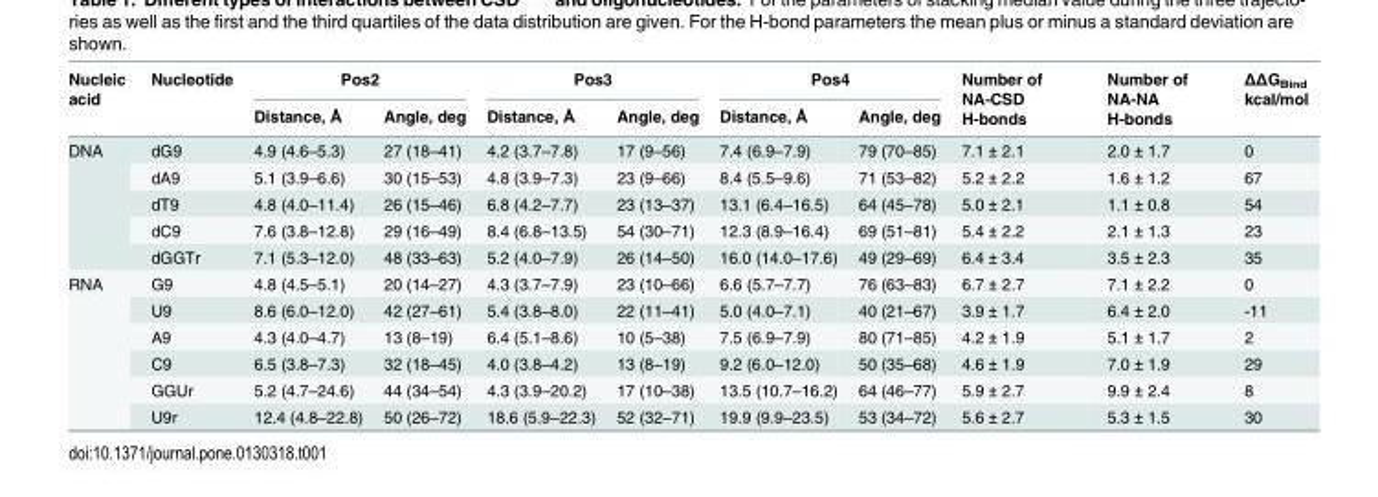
<table><thead><tr><td rowspan="2">Nucleic acid</td><td rowspan="2">Nucleotide</td><td colspan="2">Pos2</td><td colspan="2">Pos3</td><td colspan="2">Pos4</td><td rowspan="2">Number of NA-CSD H-bonds</td><td rowspan="2">Number of NA-NA H-bonds</td><td rowspan="2">ΔΔG<sub>Bind</sub> kcal/mol</td></tr><tr><td>Distance, Å</td><td>Angle, deg</td><td>Distance, Å</td><td>Angle, deg</td><td>Distance, Å</td><td>Angle, deg</td></tr></thead><tbody><tr><td rowspan="5">DNA</td><td>dG9</td><td>4.9 (4.6–5.3)</td><td>27 (18–41)</td><td>4.2 (3.7–7.8)</td><td>17 (9–56)</td><td>7.4 (6.9–7.9)</td><td>79 (70–85)</td><td>7.1 ± 2.1</td><td>2.0 ± 1.7</td><td>0</td></tr><tr><td>dA9</td><td>5.1 (3.9–6.6)</td><td>30 (15–53)</td><td>4.8 (3.9–7.3)</td><td>23 (9–66)</td><td>8.4 (5.5–9.6)</td><td>71 (53–82)</td><td>5.2 ± 2.2</td><td>1.6 ± 1.2</td><td>67</td></tr><tr><td>dT9</td><td>4.8 (4.0–11.4)</td><td>26 (15–46)</td><td>6.8 (4.2–7.7)</td><td>23 (13–37)</td><td>13.1 (6.4–16.5)</td><td>64 (45–78)</td><td>5.0 ± 2.1</td><td>1.1 ± 0.8</td><td>54</td></tr><tr><td>dC9</td><td>7.6 (3.8–12.8)</td><td>29 (16–49)</td><td>8.4 (6.8–13.5)</td><td>54 (30–71)</td><td>12.3 (8.9–16.4)</td><td>69 (51–81)</td><td>5.4 ± 2.2</td><td>2.1 ± 1.3</td><td>23</td></tr><tr><td>dGGTr</td><td>7.1 (5.3–12.0)</td><td>48 (33–63)</td><td>5.2 (4.0–7.9)</td><td>26 (14–50)</td><td>16.0 (14.0–17.6)</td><td>49 (29–69)</td><td>6.4 ± 3.4</td><td>3.5 ± 2.3</td><td>35</td></tr><tr><td rowspan="6">RNA</td><td>G9</td><td>4.8 (4.5–5.1)</td><td>20 (14–27)</td><td>4.3 (3.7–7.9)</td><td>23 (10–66)</td><td>6.6 (5.7–7.7)</td><td>76 (63–83)</td><td>6.7 ± 2.7</td><td>7.1 ± 2.2</td><td>0</td></tr><tr><td>U9</td><td>8.6 (6.0–12.0)</td><td>42 (27–61)</td><td>5.4 (3.8–8.0)</td><td>22 (11–41)</td><td>5.0 (4.0–7.1)</td><td>40 (21–67)</td><td>3.9 ± 1.7</td><td>6.4 ± 2.0</td><td>-11</td></tr><tr><td>A9</td><td>4.3 (4.0–4.7)</td><td>13 (8–19)</td><td>6.4 (5.1–8.6)</td><td>10 (5–38)</td><td>7.5 (6.9–7.9)</td><td>80 (71–85)</td><td>4.2 ± 1.9</td><td>5.1 ± 1.7</td><td>2</td></tr><tr><td>C9</td><td>6.5 (3.8–7.3)</td><td>32 (18–45)</td><td>4.0 (3.8–4.2)</td><td>13 (8–19)</td><td>9.2 (6.0–12.0)</td><td>50 (35–68)</td><td>4.6 ± 1.9</td><td>7.0 ± 1.9</td><td>29</td></tr><tr><td>GGUr</td><td>5.2 (4.7–24.6)</td><td>44 (34–54)</td><td>4.3 (3.9–20.2)</td><td>17 (10–38)</td><td>13.5 (10.7–16.2)</td><td>64 (46–77)</td><td>5.9 ± 2.7</td><td>9.9 ± 2.4</td><td>8</td></tr><tr><td>U9r</td><td>12.4 (4.8–22.8)</td><td>50 (26–72)</td><td>18.6 (5.9–22.3)</td><td>52 (32–71)</td><td>19.9 (9.9–23.5)</td><td>53 (34–72)</td><td>5.6 ± 2.7</td><td>5.3 ± 1.5</td><td>30</td></tr></tbody></table>